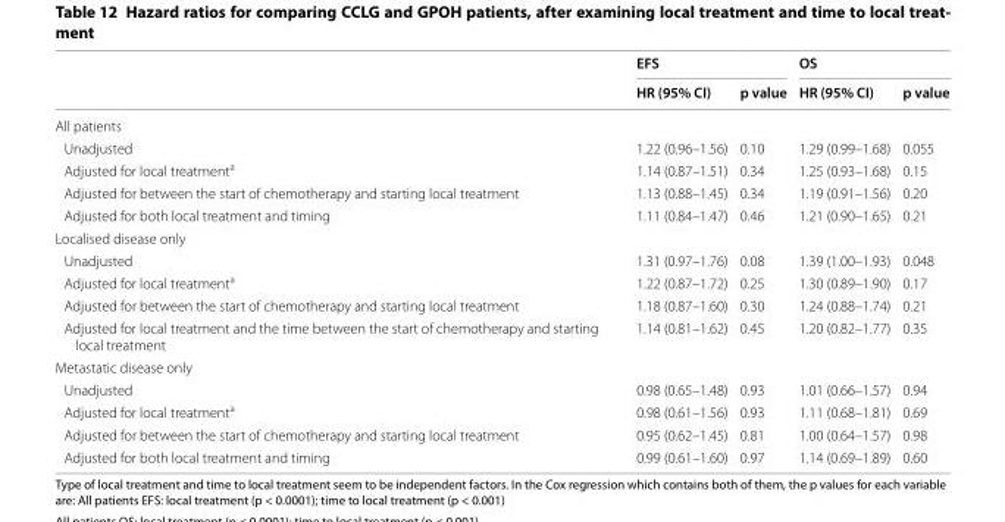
<table><thead><tr><td rowspan="2"></td><td colspan="2">EFS</td><td colspan="2">OS</td></tr><tr><td>HR (95% CI)</td><td>p value</td><td>HR (95% CI)</td><td>p value</td></tr></thead><tbody><tr><td colspan="5">All patients</td></tr><tr><td>Unadjusted</td><td>1.22 (0.96–1.56)</td><td>0.10</td><td>1.29 (0.99–1.68)</td><td>0.055</td></tr><tr><td>Adjusted for local treatment<sup>a</sup></td><td>1.14 (0.87–1.51)</td><td>0.34</td><td>1.25 (0.93–1.68)</td><td>0.15</td></tr><tr><td>Adjusted for between the start of chemotherapy and starting local treatment</td><td>1.13 (0.88–1.45)</td><td>0.34</td><td>1.19 (0.91–1.56)</td><td>0.20</td></tr><tr><td>Adjusted for both local treatment and timing</td><td>1.11 (0.84–1.47)</td><td>0.46</td><td>1.21 (0.90–1.65)</td><td>0.21</td></tr><tr><td colspan="5">Localised disease only</td></tr><tr><td>Unadjusted</td><td>1.31 (0.97–1.76)</td><td>0.08</td><td>1.39 (1.00–1.93)</td><td>0.048</td></tr><tr><td>Adjusted for local treatment<sup>a</sup></td><td>1.22 (0.87–1.72)</td><td>0.25</td><td>1.30 (0.89–1.90)</td><td>0.17</td></tr><tr><td>Adjusted for between the start of chemotherapy and starting local treatment</td><td>1.18 (0.87–1.60)</td><td>0.30</td><td>1.24 (0.88–1.74)</td><td>0.21</td></tr><tr><td>Adjusted for local treatment and the time between the start of chemotherapy and starting local treatment</td><td>1.14 (0.81–1.62)</td><td>0.45</td><td>1.20 (0.82–1.77)</td><td>0.35</td></tr><tr><td colspan="5">Metastatic disease only</td></tr><tr><td>Unadjusted</td><td>0.98 (0.65–1.48)</td><td>0.93</td><td>1.01 (0.66–1.57)</td><td>0.94</td></tr><tr><td>Adjusted for local treatment<sup>a</sup></td><td>0.98 (0.61–1.56)</td><td>0.93</td><td>1.11 (0.68–1.81)</td><td>0.69</td></tr><tr><td>Adjusted for between the start of chemotherapy and starting local treatment</td><td>0.95 (0.62–1.45)</td><td>0.81</td><td>1.00 (0.64–1.57)</td><td>0.98</td></tr><tr><td>Adjusted for both local treatment and timing</td><td>0.99 (0.61–1.60)</td><td>0.97</td><td>1.14 (0.69–1.89)</td><td>0.60</td></tr></tbody></table>